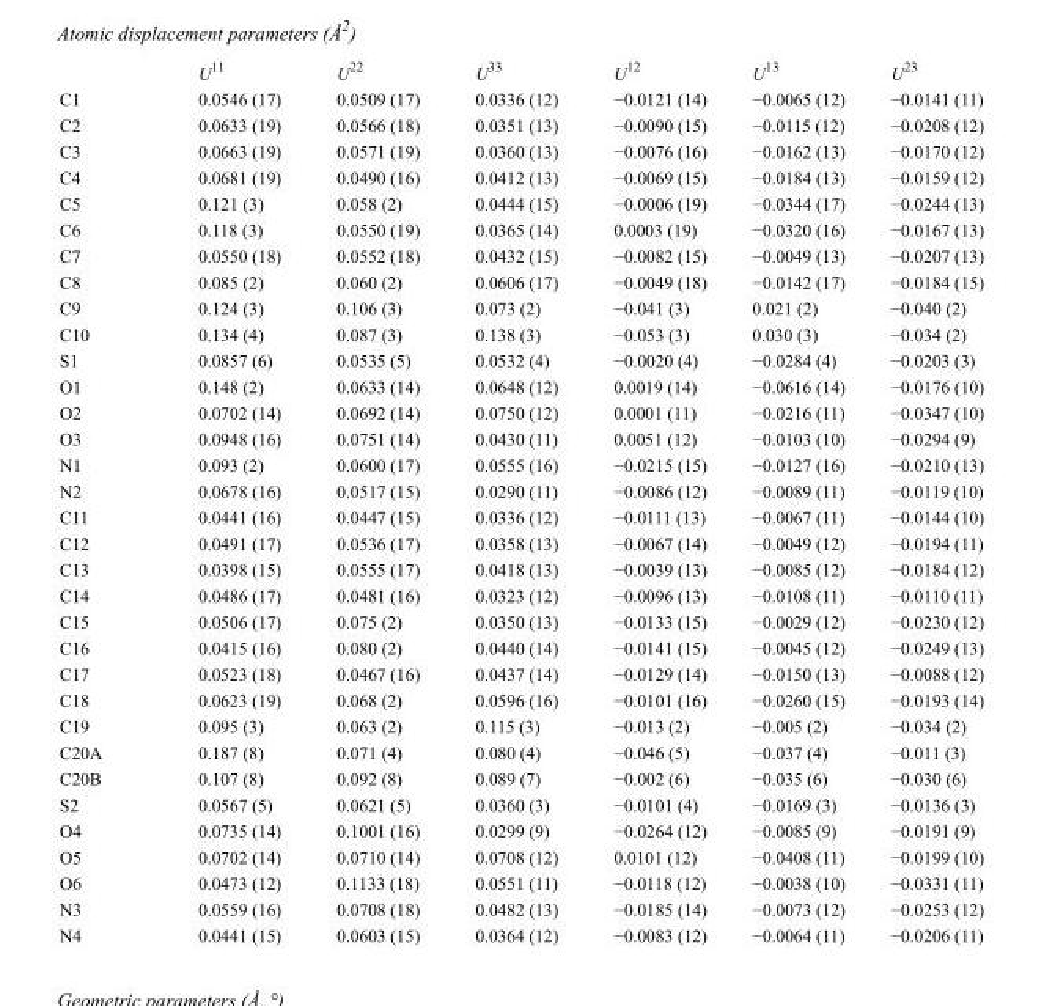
<table><thead><tr><td></td><td>U<sup>11</sup></td><td>U<sup>22</sup></td><td>U<sup>33</sup></td><td>U<sup>12</sup></td><td>U<sup>13</sup></td><td>U<sup>23</sup></td></tr></thead><tbody><tr><td>C1</td><td>0.0546 (17)</td><td>0.0509 (17)</td><td>0.0336 (12)</td><td>−0.0121 (14)</td><td>−0.0065 (12)</td><td>−0.0141 (11)</td></tr><tr><td>C2</td><td>0.0633 (19)</td><td>0.0566 (18)</td><td>0.0351 (13)</td><td>−0.0090 (15)</td><td>−0.0115 (12)</td><td>−0.0208 (12)</td></tr><tr><td>C3</td><td>0.0663 (19)</td><td>0.0571 (19)</td><td>0.0360 (13)</td><td>−0.0076 (16)</td><td>−0.0162 (13)</td><td>−0.0170 (12)</td></tr><tr><td>C4</td><td>0.0681 (19)</td><td>0.0490 (16)</td><td>0.0412 (13)</td><td>−0.0069 (15)</td><td>−0.0184 (13)</td><td>−0.0159 (12)</td></tr><tr><td>C5</td><td>0.121 (3)</td><td>0.058 (2)</td><td>0.0444 (15)</td><td>−0.0006 (19)</td><td>−0.0344 (17)</td><td>−0.0244 (13)</td></tr><tr><td>C6</td><td>0.118 (3)</td><td>0.0550 (19)</td><td>0.0365 (14)</td><td>0.0003 (19)</td><td>−0.0320 (16)</td><td>−0.0167 (13)</td></tr><tr><td>C7</td><td>0.0550 (18)</td><td>0.0552 (18)</td><td>0.0432 (15)</td><td>−0.0082 (15)</td><td>−0.0049 (13)</td><td>−0.0207 (13)</td></tr><tr><td>C8</td><td>0.085 (2)</td><td>0.060 (2)</td><td>0.0606 (17)</td><td>−0.0049 (18)</td><td>−0.0142 (17)</td><td>−0.0184 (15)</td></tr><tr><td>C9</td><td>0.124 (3)</td><td>0.106 (3)</td><td>0.073 (2)</td><td>−0.041 (3)</td><td>0.021 (2)</td><td>−0.040 (2)</td></tr><tr><td>C10</td><td>0.134 (4)</td><td>0.087 (3)</td><td>0.138 (3)</td><td>−0.053 (3)</td><td>0.030 (3)</td><td>−0.034 (2)</td></tr><tr><td>S1</td><td>0.0857 (6)</td><td>0.0535 (5)</td><td>0.0532 (4)</td><td>−0.0020 (4)</td><td>−0.0284 (4)</td><td>−0.0203 (3)</td></tr><tr><td>O1</td><td>0.148 (2)</td><td>0.0633 (14)</td><td>0.0648 (12)</td><td>0.0019 (14)</td><td>−0.0616 (14)</td><td>−0.0176 (10)</td></tr><tr><td>O2</td><td>0.0702 (14)</td><td>0.0692 (14)</td><td>0.0750 (12)</td><td>0.0001 (11)</td><td>−0.0216 (11)</td><td>−0.0347 (10)</td></tr><tr><td>O3</td><td>0.0948 (16)</td><td>0.0751 (14)</td><td>0.0430 (11)</td><td>0.0051 (12)</td><td>−0.0103 (10)</td><td>−0.0294 (9)</td></tr><tr><td>N1</td><td>0.093 (2)</td><td>0.0600 (17)</td><td>0.0555 (16)</td><td>−0.0215 (15)</td><td>−0.0127 (16)</td><td>−0.0210 (13)</td></tr><tr><td>N2</td><td>0.0678 (16)</td><td>0.0517 (15)</td><td>0.0290 (11)</td><td>−0.0086 (12)</td><td>−0.0089 (11)</td><td>−0.0119 (10)</td></tr><tr><td>C11</td><td>0.0441 (16)</td><td>0.0447 (15)</td><td>0.0336 (12)</td><td>−0.0111 (13)</td><td>−0.0067 (11)</td><td>−0.0144 (10)</td></tr><tr><td>C12</td><td>0.0491 (17)</td><td>0.0536 (17)</td><td>0.0358 (13)</td><td>−0.0067 (14)</td><td>−0.0049 (12)</td><td>−0.0194 (11)</td></tr><tr><td>C13</td><td>0.0398 (15)</td><td>0.0555 (17)</td><td>0.0418 (13)</td><td>−0.0039 (13)</td><td>−0.0085 (12)</td><td>−0.0184 (12)</td></tr><tr><td>C14</td><td>0.0486 (17)</td><td>0.0481 (16)</td><td>0.0323 (12)</td><td>−0.0096 (13)</td><td>−0.0108 (11)</td><td>−0.0110 (11)</td></tr><tr><td>C15</td><td>0.0506 (17)</td><td>0.075 (2)</td><td>0.0350 (13)</td><td>−0.0133 (15)</td><td>−0.0029 (12)</td><td>−0.0230 (12)</td></tr><tr><td>C16</td><td>0.0415 (16)</td><td>0.080 (2)</td><td>0.0440 (14)</td><td>−0.0141 (15)</td><td>−0.0045 (12)</td><td>−0.0249 (13)</td></tr><tr><td>C17</td><td>0.0523 (18)</td><td>0.0467 (16)</td><td>0.0437 (14)</td><td>−0.0129 (14)</td><td>−0.0150 (13)</td><td>−0.0088 (12)</td></tr><tr><td>C18</td><td>0.0623 (19)</td><td>0.068 (2)</td><td>0.0596 (16)</td><td>−0.0101 (16)</td><td>−0.0260 (15)</td><td>−0.0193 (14)</td></tr><tr><td>C19</td><td>0.095 (3)</td><td>0.063 (2)</td><td>0.115 (3)</td><td>−0.013 (2)</td><td>−0.005 (2)</td><td>−0.034 (2)</td></tr><tr><td>C20A</td><td>0.187 (8)</td><td>0.071 (4)</td><td>0.080 (4)</td><td>−0.046 (5)</td><td>−0.037 (4)</td><td>−0.011 (3)</td></tr><tr><td>C20B</td><td>0.107 (8)</td><td>0.092 (8)</td><td>0.089 (7)</td><td>−0.002 (6)</td><td>−0.035 (6)</td><td>−0.030 (6)</td></tr><tr><td>S2</td><td>0.0567 (5)</td><td>0.0621 (5)</td><td>0.0360 (3)</td><td>−0.0101 (4)</td><td>−0.0169 (3)</td><td>−0.0136 (3)</td></tr><tr><td>O4</td><td>0.0735 (14)</td><td>0.1001 (16)</td><td>0.0299 (9)</td><td>−0.0264 (12)</td><td>−0.0085 (9)</td><td>−0.0191 (9)</td></tr><tr><td>O5</td><td>0.0702 (14)</td><td>0.0710 (14)</td><td>0.0708 (12)</td><td>0.0101 (12)</td><td>−0.0408 (11)</td><td>−0.0199 (10)</td></tr><tr><td>O6</td><td>0.0473 (12)</td><td>0.1133 (18)</td><td>0.0551 (11)</td><td>−0.0118 (12)</td><td>−0.0038 (10)</td><td>−0.0331 (11)</td></tr><tr><td>N3</td><td>0.0559 (16)</td><td>0.0708 (18)</td><td>0.0482 (13)</td><td>−0.0185 (14)</td><td>−0.0073 (12)</td><td>−0.0253 (12)</td></tr><tr><td>N4</td><td>0.0441 (15)</td><td>0.0603 (15)</td><td>0.0364 (12)</td><td>−0.0083 (12)</td><td>−0.0064 (11)</td><td>−0.0206 (11)</td></tr></tbody></table>